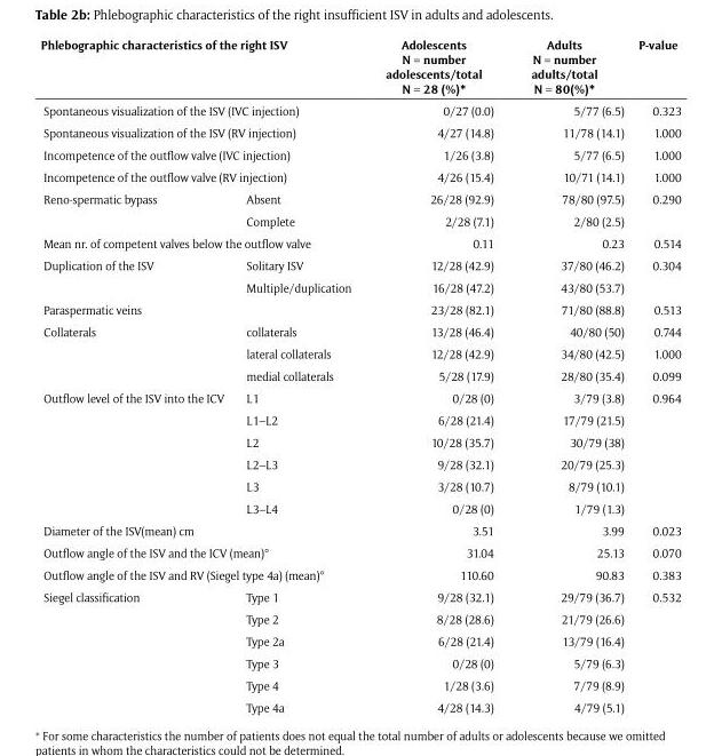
<table><thead><tr><td colspan="2">Phlebographic characteristics of the right ISV</td><td>Adolescents N = number adolescents/total N = 28 (%)*</td><td>Adults N = number adults/total N = 80(%)*</td><td>P-value</td></tr></thead><tbody><tr><td colspan="2">Spontaneous visualization of the ISV (IVC injection)</td><td>0/27 (0.0)</td><td>5/77 (6.5)</td><td>0.323</td></tr><tr><td colspan="2">Spontaneous visualization of the ISV (RV injection)</td><td>4/27 (14.8)</td><td>11/78 (14.1)</td><td>1.000</td></tr><tr><td colspan="2">Incompetence of the outflow valve (IVC injection)</td><td>1/26 (3.8)</td><td>5/77 (6.5)</td><td>1.000</td></tr><tr><td colspan="2">Incompetence of the outflow valve (RV injection)</td><td>4/26 (15.4)</td><td>10/71 (14.1)</td><td>1.000</td></tr><tr><td rowspan="2">Reno-spermatic bypass</td><td>Absent</td><td>26/28 (92.9)</td><td>78/80 (97.5)</td><td rowspan="2">0.290</td></tr><tr><td>Complete</td><td>2/28 (7.1)</td><td>2/80 (2.5)</td></tr><tr><td colspan="2">Mean nr. of competent valves below the outflow valve</td><td>0.11</td><td>0.23</td><td>0.514</td></tr><tr><td rowspan="2">Duplication of the ISV</td><td>Solitary ISV</td><td>12/28 (42.9)</td><td>37/80 (46.2)</td><td rowspan="2">0.304</td></tr><tr><td>Multiple/duplication</td><td>16/28 (47.2)</td><td>43/80 (53.7)</td></tr><tr><td colspan="2">Paraspermatic veins</td><td>23/28 (82.1)</td><td>71/80 (88.8)</td><td>0.513</td></tr><tr><td rowspan="3">Collaterals</td><td>collaterals</td><td>13/28 (46.4)</td><td>40/80 (50)</td><td>0.744</td></tr><tr><td>lateral collaterals</td><td>12/28 (42.9)</td><td>34/80 (42.5)</td><td>1.000</td></tr><tr><td>medial collaterals</td><td>5/28 (17.9)</td><td>28/80 (35.4)</td><td>0.099</td></tr><tr><td rowspan="6">Outflow level of the ISV into the ICV</td><td>L1</td><td>0/28 (0)</td><td>3/79 (3.8)</td><td rowspan="6">0.964</td></tr><tr><td>L1–L2</td><td>6/28 (21.4)</td><td>17/79 (21.5)</td></tr><tr><td>L2</td><td>10/28 (35.7)</td><td>30/79 (38)</td></tr><tr><td>L2–L3</td><td>9/28 (32.1)</td><td>20/79 (25.3)</td></tr><tr><td>L3</td><td>3/28 (10.7)</td><td>8/79 (10.1)</td></tr><tr><td>L3–L4</td><td>0/28 (0)</td><td>1/79 (1.3)</td></tr><tr><td colspan="2">Diameter of the ISV(mean) cm</td><td>3.51</td><td>3.99</td><td>0.023</td></tr><tr><td colspan="2">Outflow angle of the ISV and the ICV (mean)°</td><td>31.04</td><td>25.13</td><td>0.070</td></tr><tr><td colspan="2">Outflow angle of the ISV and RV (Siegel type 4a) (mean)°</td><td>110.60</td><td>90.83</td><td>0.383</td></tr><tr><td rowspan="6">Siegel classification</td><td>Type 1</td><td>9/28 (32.1)</td><td>29/79 (36.7)</td><td rowspan="6">0.532</td></tr><tr><td>Type 2</td><td>8/28 (28.6)</td><td>21/79 (26.6)</td></tr><tr><td>Type 2a</td><td>6/28 (21.4)</td><td>13/79 (16.4)</td></tr><tr><td>Type 3</td><td>0/28 (0)</td><td>5/79 (6.3)</td></tr><tr><td>Type 4</td><td>1/28 (3.6)</td><td>7/79 (8.9)</td></tr><tr><td>Type 4a</td><td>4/28 (14.3)</td><td>4/79 (5.1)</td></tr></tbody></table>